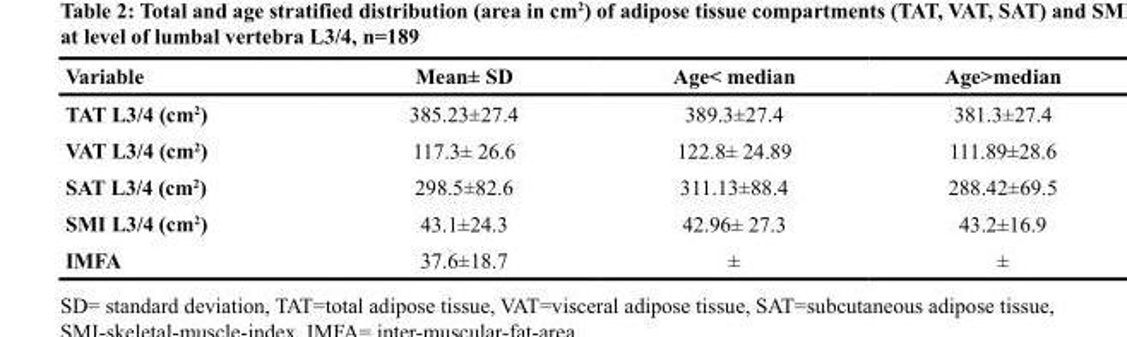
<table><thead><tr><td>Variable</td><td>Mean± SD</td><td>Age&lt; median</td><td>Age&gt;median</td></tr></thead><tbody><tr><td>TAT L3/4 (cm<sup>2</sup>)</td><td>385.23±27.4</td><td>389.3±27.4</td><td>381.3±27.4</td></tr><tr><td>VAT L3/4 (cm<sup>2</sup>)</td><td>117.3± 26.6</td><td>122.8± 24.89</td><td>111.89±28.6</td></tr><tr><td>SAT L3/4 (cm<sup>2</sup>)</td><td>298.5±82.6</td><td>311.13±88.4</td><td>288.42±69.5</td></tr><tr><td>SMI L3/4 (cm<sup>2</sup>)</td><td>43.1±24.3</td><td>42.96± 27.3</td><td>43.2±16.9</td></tr><tr><td>IMFA</td><td>37.6±18.7</td><td>±</td><td>±</td></tr></tbody></table>